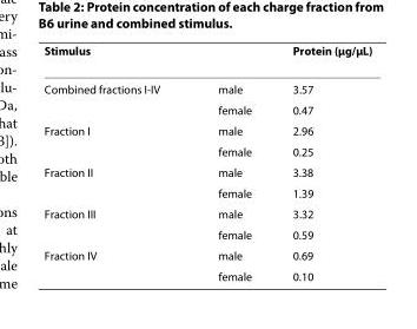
<table><thead><tr><td>Stimulus</td><td></td><td>Protein (μg/μL)</td></tr></thead><tbody><tr><td rowspan="2">Combined fractions I-IV</td><td>male</td><td>3.57</td></tr><tr><td>female</td><td>0.47</td></tr><tr><td rowspan="2">Fraction I</td><td>male</td><td>2.96</td></tr><tr><td>female</td><td>0.25</td></tr><tr><td rowspan="2">Fraction II</td><td>male</td><td>3.38</td></tr><tr><td>female</td><td>1.39</td></tr><tr><td rowspan="2">Fraction III</td><td>male</td><td>3.32</td></tr><tr><td>female</td><td>0.59</td></tr><tr><td rowspan="2">Fraction IV</td><td>male</td><td>0.69</td></tr><tr><td>female</td><td>0.10</td></tr></tbody></table>